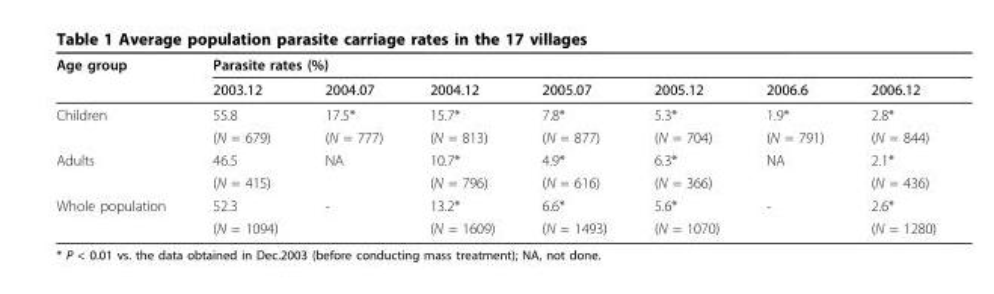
<table><thead><tr><td rowspan="2">Age group</td><td colspan="7">Parasite rates (%)</td></tr><tr><td>2003.12</td><td>2004.07</td><td>2004.12</td><td>2005.07</td><td>2005.12</td><td>2006.6</td><td>2006.12</td></tr></thead><tbody><tr><td rowspan="2">Children</td><td>55.8</td><td>17.5*</td><td>15.7*</td><td>7.8*</td><td>5.3*</td><td>1.9*</td><td>2.8*</td></tr><tr><td>(N = 679)</td><td>(N = 777)</td><td>(N = 813)</td><td>(N = 877)</td><td>(N = 704)</td><td>(N = 791)</td><td>(N = 844)</td></tr><tr><td rowspan="2">Adults</td><td>46.5</td><td>NA</td><td>10.7*</td><td>4.9*</td><td>6.3*</td><td>NA</td><td>2.1*</td></tr><tr><td>(N = 415)</td><td></td><td>(N = 796)</td><td>(N = 616)</td><td>(N = 366)</td><td></td><td>(N = 436)</td></tr><tr><td rowspan="2">Whole population</td><td>52.3</td><td>-</td><td>13.2*</td><td>6.6*</td><td>5.6*</td><td>-</td><td>2.6*</td></tr><tr><td>(N = 1094)</td><td></td><td>(N = 1609)</td><td>(N = 1493)</td><td>(N = 1070)</td><td></td><td>(N = 1280)</td></tr></tbody></table>